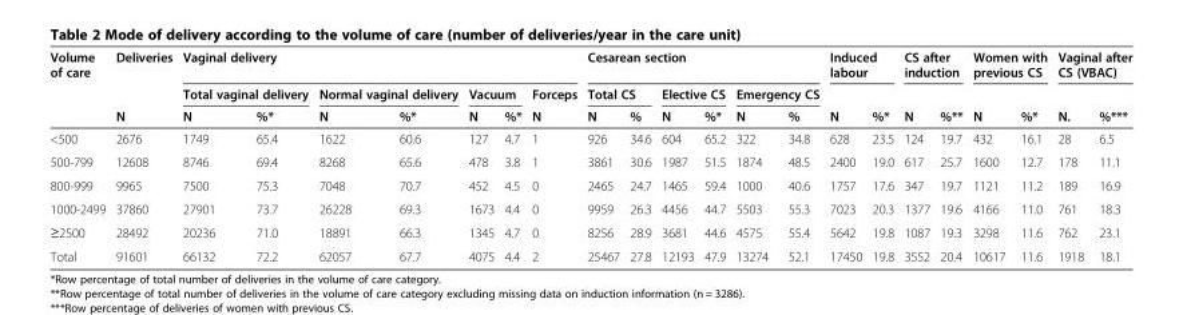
<table><thead><tr><td rowspan="3">Volume of care</td><td rowspan="3">Deliveries N</td><td colspan="7">Vaginal delivery</td><td colspan="6">Cesarean section</td><td colspan="2">Induced labour</td><td colspan="2">CS after induction</td><td colspan="2">Women with previous CS</td><td colspan="2">Vaginal after CS (VBAC)</td></tr><tr><td colspan="2">Total vaginal delivery</td><td colspan="2">Normal vaginal delivery</td><td colspan="2">Vacuum</td><td rowspan="2">Forceps N</td><td colspan="2">Total CS</td><td colspan="2">Elective CS</td><td colspan="2">Emergency CS</td><td rowspan="2">N</td><td rowspan="2">%*</td><td rowspan="2">N</td><td rowspan="2">%**</td><td rowspan="2">N</td><td rowspan="2">%*</td><td rowspan="2">N.</td><td rowspan="2">%***</td></tr><tr><td>N</td><td>%*</td><td>N</td><td>%*</td><td>N</td><td>%*</td><td>N</td><td>%</td><td>N</td><td>%*</td><td>N</td><td>%</td></tr></thead><tbody><tr><td>&lt;500</td><td>2676</td><td>1749</td><td>65.4</td><td>1622</td><td>60.6</td><td>127</td><td>4.7</td><td>1</td><td>926</td><td>34.6</td><td>604</td><td>65.2</td><td>322</td><td>34.8</td><td>628</td><td>23.5</td><td>124</td><td>19.7</td><td>432</td><td>16.1</td><td>28</td><td>6.5</td></tr><tr><td>500-799</td><td>12608</td><td>8746</td><td>69.4</td><td>8268</td><td>65.6</td><td>478</td><td>3.8</td><td>1</td><td>3861</td><td>30.6</td><td>1987</td><td>51.5</td><td>1874</td><td>48.5</td><td>2400</td><td>19.0</td><td>617</td><td>25.7</td><td>1600</td><td>12.7</td><td>178</td><td>11.1</td></tr><tr><td>800-999</td><td>9965</td><td>7500</td><td>75.3</td><td>7048</td><td>70.7</td><td>452</td><td>4.5</td><td>0</td><td>2465</td><td>24.7</td><td>1465</td><td>59.4</td><td>1000</td><td>40.6</td><td>1757</td><td>17.6</td><td>347</td><td>19.7</td><td>1121</td><td>11.2</td><td>189</td><td>16.9</td></tr><tr><td>1000-2499</td><td>37860</td><td>27901</td><td>73.7</td><td>26228</td><td>69.3</td><td>1673</td><td>4.4</td><td>0</td><td>9959</td><td>26.3</td><td>4456</td><td>44.7</td><td>5503</td><td>55.3</td><td>7023</td><td>20.3</td><td>1377</td><td>19.6</td><td>4166</td><td>11.0</td><td>761</td><td>18.3</td></tr><tr><td>≥2500</td><td>28492</td><td>20236</td><td>71.0</td><td>18891</td><td>66.3</td><td>1345</td><td>4.7</td><td>0</td><td>8256</td><td>28.9</td><td>3681</td><td>44.6</td><td>4575</td><td>55.4</td><td>5642</td><td>19.8</td><td>1087</td><td>19.3</td><td>3298</td><td>11.6</td><td>762</td><td>23.1</td></tr><tr><td>Total</td><td>91601</td><td>66132</td><td>72.2</td><td>62057</td><td>67.7</td><td>4075</td><td>4.4</td><td>2</td><td>25467</td><td>27.8</td><td>12193</td><td>47.9</td><td>13274</td><td>52.1</td><td>17450</td><td>19.8</td><td>3552</td><td>20.4</td><td>10617</td><td>11.6</td><td>1918</td><td>18.1</td></tr></tbody></table>